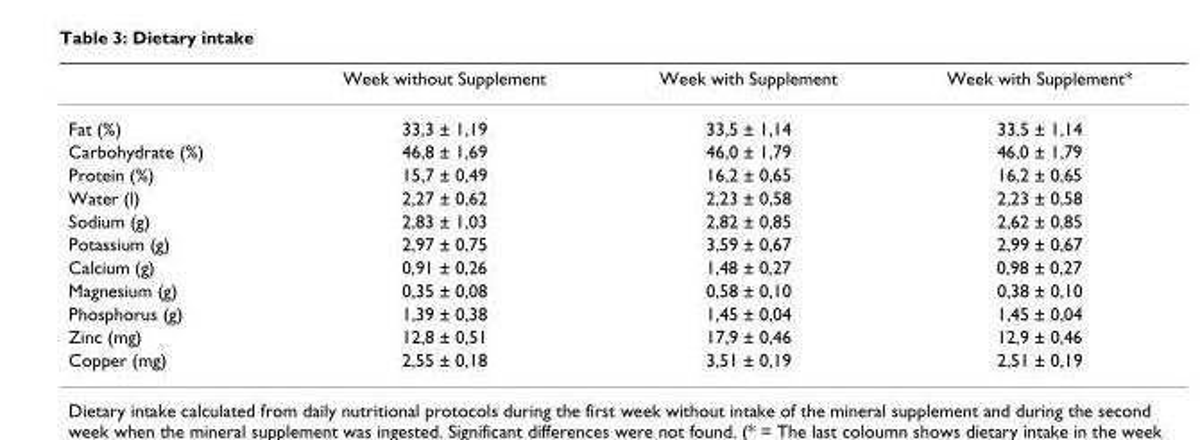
<table><thead><tr><td></td><td>Week without Supplement</td><td>Week with Supplement</td><td>Week with Supplement*</td></tr></thead><tbody><tr><td>Fat (%)</td><td>33,3 ± 1,19</td><td>33,5 ± 1,14</td><td>33,5 ± 1,14</td></tr><tr><td>Carbohydrate (%)</td><td>46,8 ± 1,69</td><td>46,0 ± 1,79</td><td>46,0 ± 1,79</td></tr><tr><td>Protein (%)</td><td>15,7 ± 0,49</td><td>16,2 ± 0,65</td><td>16,2 ± 0,65</td></tr><tr><td>Water (l)</td><td>2,27 ± 0,62</td><td>2,23 ± 0,58</td><td>2,23 ± 0,58</td></tr><tr><td>Sodium (g)</td><td>2,83 ± 1,03</td><td>2,82 ± 0,85</td><td>2,62 ± 0,85</td></tr><tr><td>Potassium (g)</td><td>2,97 ± 0,75</td><td>3,59 ± 0,67</td><td>2,99 ± 0,67</td></tr><tr><td>Calcium (g)</td><td>0,91 ± 0,26</td><td>1,48 ± 0,27</td><td>0,98 ± 0,27</td></tr><tr><td>Magnesium (g)</td><td>0,35 ± 0,08</td><td>0,58 ± 0,10</td><td>0,38 ± 0,10</td></tr><tr><td>Phosphorus (g)</td><td>1,39 ± 0,38</td><td>1,45 ± 0,04</td><td>1,45 ± 0,04</td></tr><tr><td>Zinc (mg)</td><td>12,8 ± 0,51</td><td>17,9 ± 0,46</td><td>12,9 ± 0,46</td></tr><tr><td>Copper (mg)</td><td>2,55 ± 0,18</td><td>3,51 ± 0,19</td><td>2,51 ± 0,19</td></tr></tbody></table>